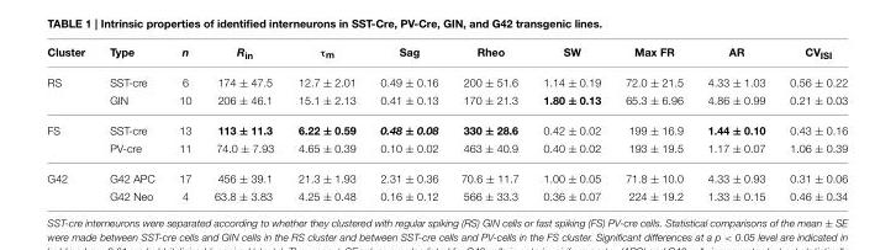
<table><thead><tr><td>Cluster</td><td>Type</td><td>n</td><td>R<sub>in</sub></td><td>τ<sub>m</sub></td><td>Sag</td><td>Rheo</td><td>SW</td><td>Max FR</td><td>AR</td><td>CV<sub>ISI</sub></td></tr></thead><tbody><tr><td rowspan="2">RS</td><td>SST-cre</td><td>6</td><td>174 ± 47.5</td><td>12.7 ± 2.01</td><td>0.49 ± 0.16</td><td>200 ± 51.6</td><td>1.14 ± 0.19</td><td>72.0 ± 21.5</td><td>4.33 ± 1.03</td><td>0.56 ± 0.22</td></tr><tr><td>GIN</td><td>10</td><td>206 ± 46.1</td><td>15.1 ± 2.13</td><td>0.41 ± 0.13</td><td>170 ± 21.3</td><td>1.80 ± 0.13</td><td>65.3 ± 6.96</td><td>4.86 ± 0.99</td><td>0.21 ± 0.03</td></tr><tr><td rowspan="2">FS</td><td>SST-cre</td><td>13</td><td>113 ± 11.3</td><td>6.22 ± 0.59</td><td>0.48 ± 0.08</td><td>330 ± 28.6</td><td>0.42 ± 0.02</td><td>199 ± 16.9</td><td>1.44 ± 0.10</td><td>0.43 ± 0.16</td></tr><tr><td>PV-cre</td><td>11</td><td>74.0 ± 7.93</td><td>4.65 ± 0.39</td><td>0.10 ± 0.02</td><td>463 ± 40.9</td><td>0.40 ± 0.02</td><td>193 ± 19.5</td><td>1.17 ± 0.07</td><td>1.06 ± 0.39</td></tr><tr><td rowspan="2">G42</td><td>G42 APC</td><td>17</td><td>456 ± 39.1</td><td>21.3 ± 1.93</td><td>2.31 ± 0.36</td><td>70.6 ± 11.7</td><td>1.00 ± 0.05</td><td>71.8 ± 10.0</td><td>4.33 ± 0.93</td><td>0.31 ± 0.06</td></tr><tr><td>G42 Neo</td><td>4</td><td>63.8 ± 3.83</td><td>4.25 ± 0.48</td><td>0.16 ± 0.12</td><td>566 ± 33.3</td><td>0.36 ± 0.07</td><td>224 ± 19.2</td><td>1.33 ± 0.15</td><td>0.46 ± 0.34</td></tr></tbody></table>